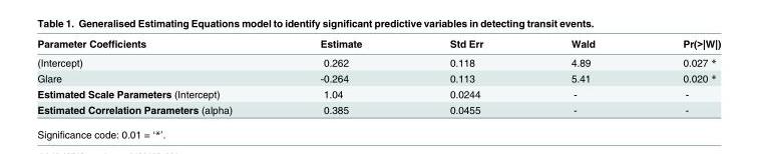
<table><thead><tr><td>Parameter Coefficients</td><td>Estimate</td><td>Std Err</td><td>Wald</td><td>Pr(&gt;|W|)</td></tr></thead><tbody><tr><td>(Intercept)</td><td>0.262</td><td>0.118</td><td>4.89</td><td>0.027 *</td></tr><tr><td>Glare</td><td>-0.264</td><td>0.113</td><td>5.41</td><td>0.020 *</td></tr><tr><td>Estimated Scale Parameters (Intercept)</td><td>1.04</td><td>0.0244</td><td>-</td><td>-</td></tr><tr><td>Estimated Correlation Parameters (alpha)</td><td>0.385</td><td>0.0455</td><td>-</td><td>-</td></tr></tbody></table>